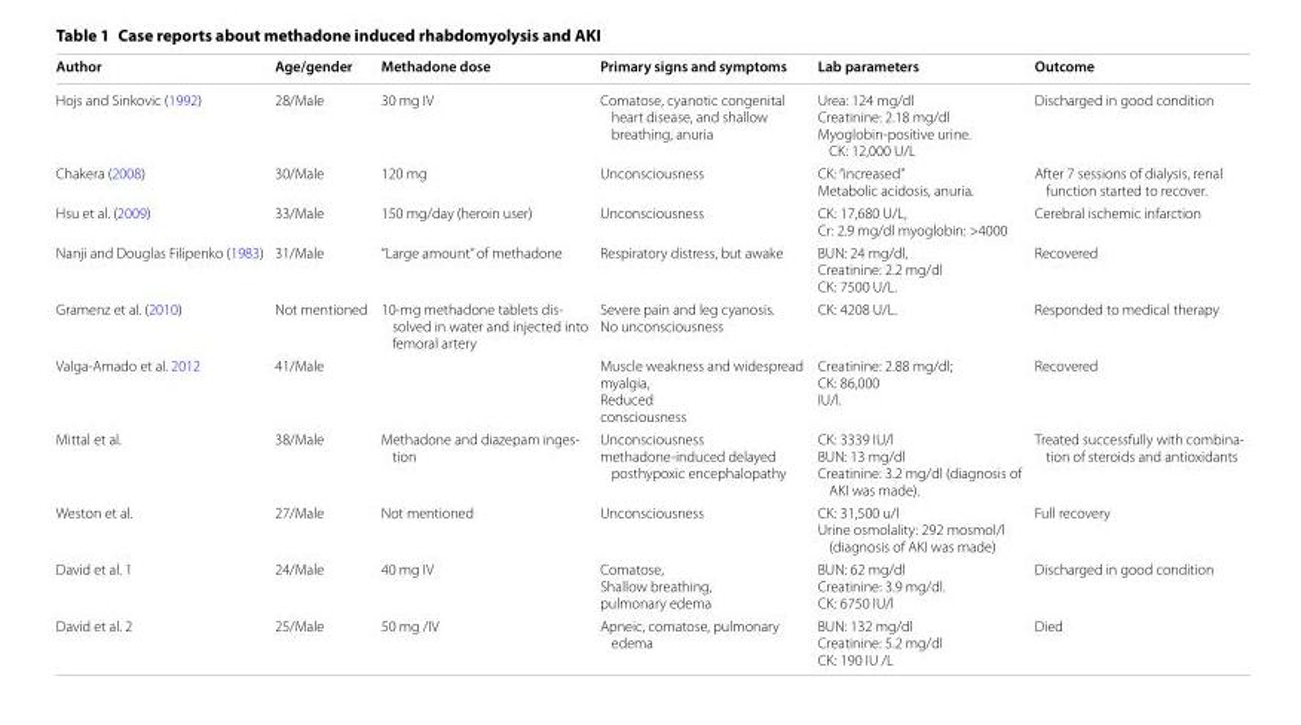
<table><thead><tr><td>Author</td><td>Age/gender</td><td>Methadone dose</td><td>Primary signs and symptoms</td><td>Lab parameters</td><td>Outcome</td></tr></thead><tbody><tr><td>Hojs and Sinkovic (1992)</td><td>28/Male</td><td>30 mg IV</td><td>Comatose, cyanotic congenital heart disease, and shallow breathing, anuria</td><td>Urea: 124 mg/dl Creatinine: 2.18 mg/dl Myoglobin-positive urine. CK: 12,000 U/L</td><td>Discharged in good condition</td></tr><tr><td>Chakera (2008)</td><td>30/Male</td><td>120 mg</td><td>Unconsciousness</td><td>CK: “increased” Metabolic acidosis, anuria.</td><td>After 7 sessions of dialysis, renal function started to recover.</td></tr><tr><td>Hsu et al. (2009)</td><td>33/Male</td><td>150 mg/day (heroin user)</td><td>Unconsciousness</td><td>CK: 17,680 U/L, Cr: 2.9 mg/dl myoglobin: &gt;4000</td><td>Cerebral ischemic infarction</td></tr><tr><td>Nanji and Douglas Filipenko (1983)</td><td>31/Male</td><td>“Large amount” of methadone</td><td>Respiratory distress, but awake</td><td>BUN: 24 mg/dl, Creatinine: 2.2 mg/dl CK: 7500 U/L.</td><td>Recovered</td></tr><tr><td>Gramenz et al. (2010)</td><td>Not mentioned</td><td>10-mg methadone tablets dis- solved in water and injected into femoral artery</td><td>Severe pain and leg cyanosis. No unconsciousness</td><td>CK: 4208 U/L.</td><td>Responded to medical therapy</td></tr><tr><td>Valga-Amado et al. 2012</td><td>41/Male</td><td></td><td>Muscle weakness and widespread myalgia, Reduced consciousness</td><td>Creatinine: 2.88 mg/dl; CK: 86,000 IU/l.</td><td>Recovered</td></tr><tr><td>Mittal et al.</td><td>38/Male</td><td>Methadone and diazepam inges- tion</td><td>Unconsciousness methadone-induced delayed posthypoxic encephalopathy</td><td>CK: 3339 IU/l BUN: 13 mg/dl Creatinine: 3.2 mg/dl (diagnosis of AKI was made).</td><td>Treated successfully with combina- tion of steroids and antioxidants</td></tr><tr><td>Weston et al.</td><td>27/Male</td><td>Not mentioned</td><td>Unconsciousness</td><td>CK: 31,500 u/l Urine osmolality: 292 mosmol/l (diagnosis of AKI was made)</td><td>Full recovery</td></tr><tr><td>David et al. 1</td><td>24/Male</td><td>40 mg IV</td><td>Comatose, Shallow breathing, pulmonary edema</td><td>BUN: 62 mg/dl Creatinine: 3.9 mg/dl. CK: 6750 IU/l</td><td>Discharged in good condition</td></tr><tr><td>David et al. 2</td><td>25/Male</td><td>50 mg /IV</td><td>Apneic, comatose, pulmonary edema</td><td>BUN: 132 mg/dl Creatinine: 5.2 mg/dl CK: 190 IU /L</td><td>Died</td></tr></tbody></table>